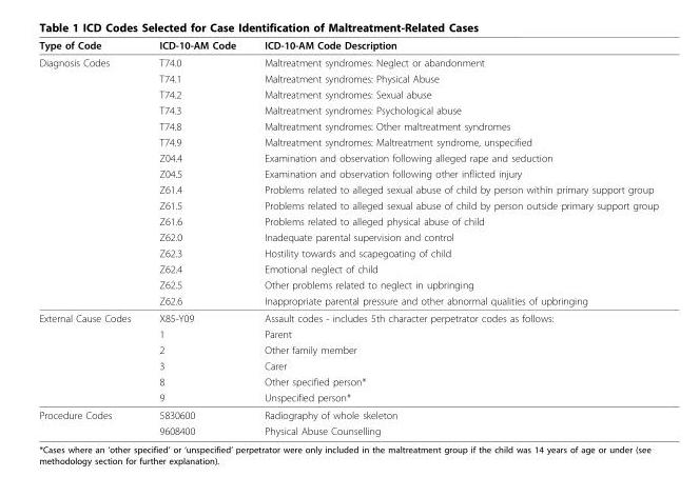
<table><thead><tr><td>Type of Code</td><td>ICD-10-AM Code</td><td>ICD-10-AM Code Description</td></tr></thead><tbody><tr><td rowspan="16">Diagnosis Codes</td><td>T74.0</td><td>Maltreatment syndromes: Neglect or abandonment</td></tr><tr><td>T74.1</td><td>Maltreatment syndromes: Physical Abuse</td></tr><tr><td>T74.2</td><td>Maltreatment syndromes: Sexual abuse</td></tr><tr><td>T74.3</td><td>Maltreatment syndromes: Psychological abuse</td></tr><tr><td>T74.8</td><td>Maltreatment syndromes: Other maltreatment syndromes</td></tr><tr><td>T74.9</td><td>Maltreatment syndromes: Maltreatment syndrome, unspecified</td></tr><tr><td>Z04.4</td><td>Examination and observation following alleged rape and seduction</td></tr><tr><td>Z04.5</td><td>Examination and observation following other inflicted injury</td></tr><tr><td>Z61.4</td><td>Problems related to alleged sexual abuse of child by person within primary support group</td></tr><tr><td>Z61.5</td><td>Problems related to alleged sexual abuse of child by person outside primary support group</td></tr><tr><td>Z61.6</td><td>Problems related to alleged physical abuse of child</td></tr><tr><td>Z62.0</td><td>Inadequate parental supervision and control</td></tr><tr><td>Z62.3</td><td>Hostility towards and scapegoating of child</td></tr><tr><td>Z62.4</td><td>Emotional neglect of child</td></tr><tr><td>Z62.5</td><td>Other problems related to neglect in upbringing</td></tr><tr><td>Z62.6</td><td>Inappropriate parental pressure and other abnormal qualities of upbringing</td></tr><tr><td rowspan="6">External Cause Codes</td><td>X85-Y09</td><td>Assault codes - includes 5th character perpetrator codes as follows:</td></tr><tr><td>1</td><td>Parent</td></tr><tr><td>2</td><td>Other family member</td></tr><tr><td>3</td><td>Carer</td></tr><tr><td>8</td><td>Other specified person*</td></tr><tr><td>9</td><td>Unspecified person*</td></tr><tr><td rowspan="2">Procedure Codes</td><td>5830600</td><td>Radiography of whole skeleton</td></tr><tr><td>9608400</td><td>Physical Abuse Counselling</td></tr></tbody></table>